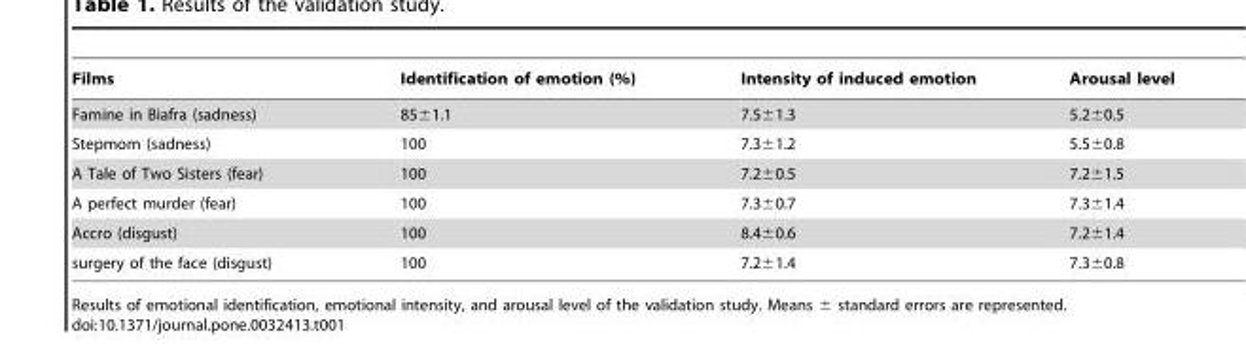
<table><thead><tr><td>Films</td><td>Identification of emotion (%)</td><td>Intensity of induced emotion</td><td>Arousal level</td></tr></thead><tbody><tr><td>Famine in Biafra (sadness)</td><td>85±1.1</td><td>7.5±1.3</td><td>5.2±0.5</td></tr><tr><td>Stepmom (sadness)</td><td>100</td><td>7.3±1.2</td><td>5.5±0.8</td></tr><tr><td>A Tale of Two Sisters (fear)</td><td>100</td><td>7.2±0.5</td><td>7.2±1.5</td></tr><tr><td>A perfect murder (fear)</td><td>100</td><td>7.3±0.7</td><td>7.3±1.4</td></tr><tr><td>Accro (disgust)</td><td>100</td><td>8.4±0.6</td><td>7.2±1.4</td></tr><tr><td>surgery of the face (disgust)</td><td>100</td><td>7.2±1.4</td><td>7.3±0.8</td></tr></tbody></table>